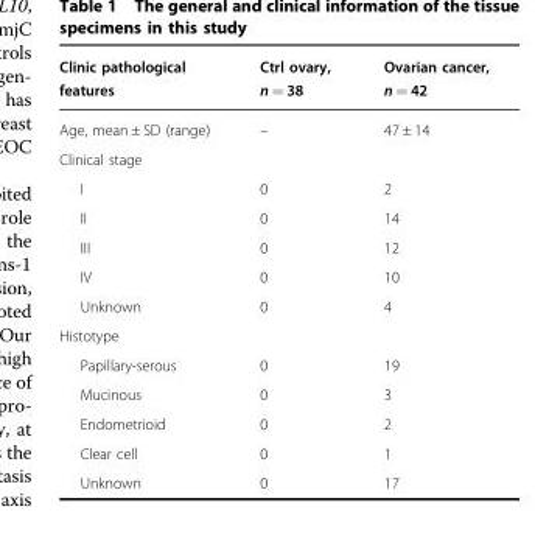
<table><thead><tr><td>Clinic pathological features</td><td>Ctrl ovary, n = 38</td><td>Ovarian cancer, n = 42</td></tr></thead><tbody><tr><td>Age, mean ± SD (range)</td><td>–</td><td>47 ± 14</td></tr><tr><td colspan="3">Clinical stage</td></tr><tr><td>I</td><td>0</td><td>2</td></tr><tr><td>II</td><td>0</td><td>14</td></tr><tr><td>III</td><td>0</td><td>12</td></tr><tr><td>IV</td><td>0</td><td>10</td></tr><tr><td>Unknown</td><td>0</td><td>4</td></tr><tr><td colspan="3">Histotype</td></tr><tr><td>Papillary-serous</td><td>0</td><td>19</td></tr><tr><td>Mucinous</td><td>0</td><td>3</td></tr><tr><td>Endometrioid</td><td>0</td><td>2</td></tr><tr><td>Clear cell</td><td>0</td><td>1</td></tr><tr><td>Unknown</td><td>0</td><td>17</td></tr></tbody></table>